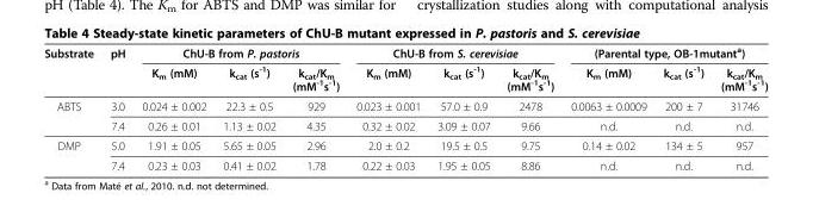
<table><thead><tr><td rowspan="2">Substrate</td><td rowspan="2">pH</td><td colspan="3">ChU-B from P. pastoris</td><td colspan="3">ChU-B from S. cerevisiae</td><td colspan="3">(Parental type, OB-1mutant<sup>a</sup>)</td></tr><tr><td>K<sub>m</sub> (mM)</td><td>k<sub>cat</sub> (s<sup>-1</sup>)</td><td>k<sub>cat</sub>/K<sub>m</sub> (mM<sup>-1</sup>s<sup>-1</sup>)</td><td>K<sub>m</sub> (mM)</td><td>k<sub>cat</sub> (s<sup>-1</sup>)</td><td>k<sub>cat</sub>/K<sub>m</sub> (mM<sup>-1</sup>s<sup>-1</sup>)</td><td>K<sub>m</sub> (mM)</td><td>k<sub>cat</sub> (s<sup>-1</sup>)</td><td>k<sub>cat</sub>/K<sub>m</sub> (mM<sup>-1</sup>s<sup>-1</sup>)</td></tr></thead><tbody><tr><td rowspan="2">ABTS</td><td>3.0</td><td>0.024 ± 0.002</td><td>22.3 ± 0.5</td><td>929</td><td>0.023 ± 0.001</td><td>57.0 ± 0.9</td><td>2478</td><td>0.0063 ± 0.0009</td><td>200 ± 7</td><td>31746</td></tr><tr><td>7.4</td><td>0.26 ± 0.01</td><td>1.13 ± 0.02</td><td>4.35</td><td>0.32 ± 0.02</td><td>3.09 ± 0.07</td><td>9.66</td><td>n.d.</td><td>n.d.</td><td>n.d.</td></tr><tr><td rowspan="2">DMP</td><td>5.0</td><td>1.91 ± 0.05</td><td>5.65 ± 0.05</td><td>2.96</td><td>2.0 ± 0.2</td><td>19.5 ± 0.5</td><td>9.75</td><td>0.14 ± 0.02</td><td>134 ± 5</td><td>957</td></tr><tr><td>7.4</td><td>0.23 ± 0.03</td><td>0.41 ± 0.02</td><td>1.78</td><td>0.22 ± 0.03</td><td>1.95 ± 0.05</td><td>8.86</td><td>n.d.</td><td>n.d.</td><td>n.d.</td></tr></tbody></table>